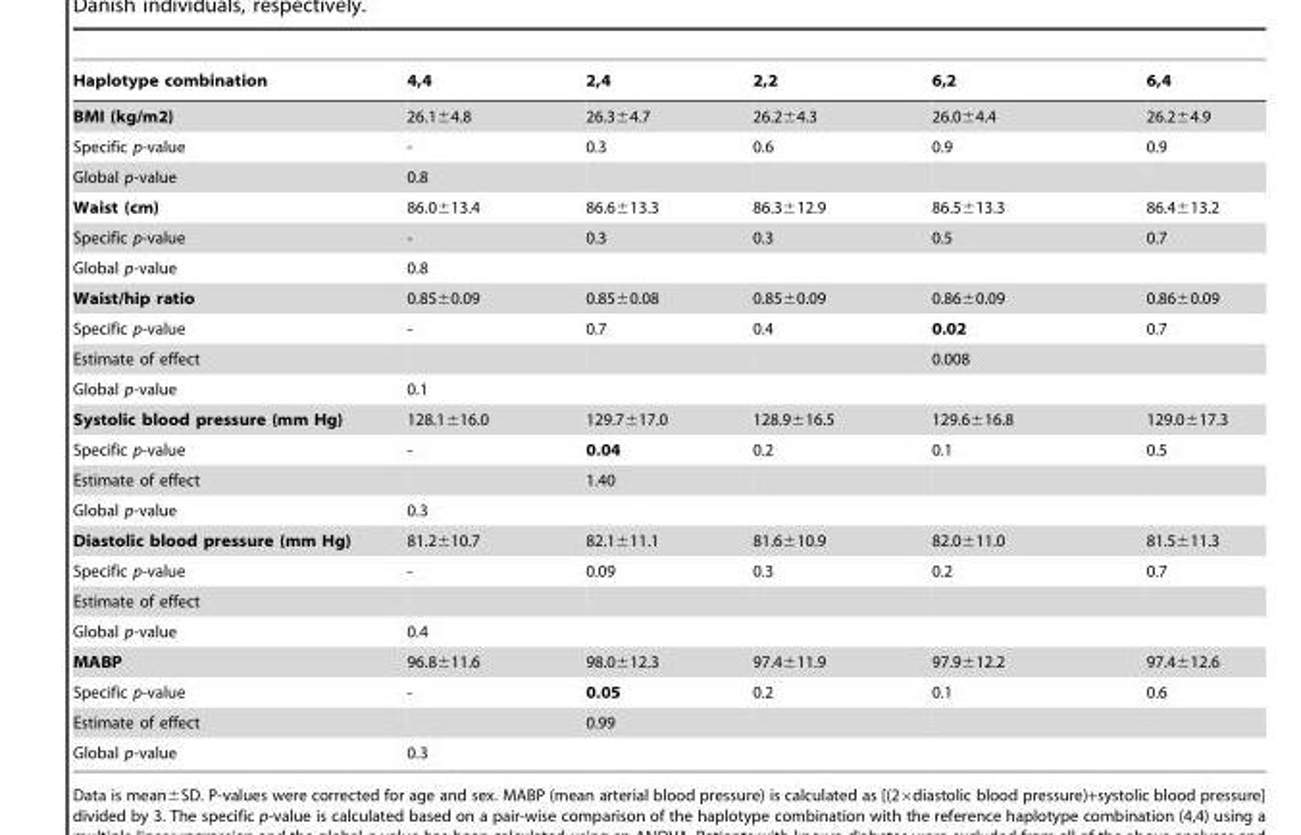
<table><thead><tr><td>Haplotype combination</td><td>4,4</td><td>2,4</td><td>2,2</td><td>6,2</td><td>6,4</td></tr></thead><tbody><tr><td>BMI (kg/m2)</td><td>26.1±4.8</td><td>26.3±4.7</td><td>26.2±4.3</td><td>26.0±4.4</td><td>26.2±4.9</td></tr><tr><td>Specific p-value</td><td>-</td><td>0.3</td><td>0.6</td><td>0.9</td><td>0.9</td></tr><tr><td>Global p-value</td><td>0.8</td><td></td><td></td><td></td><td></td></tr><tr><td>Waist (cm)</td><td>86.0±13.4</td><td>86.6±13.3</td><td>86.3±12.9</td><td>86.5±13.3</td><td>86.4±13.2</td></tr><tr><td>Specific p-value</td><td>-</td><td>0.3</td><td>0.3</td><td>0.5</td><td>0.7</td></tr><tr><td>Global p-value</td><td>0.8</td><td></td><td></td><td></td><td></td></tr><tr><td>Waist/hip ratio</td><td>0.85±0.09</td><td>0.85±0.08</td><td>0.85±0.09</td><td>0.86±0.09</td><td>0.86±0.09</td></tr><tr><td>Specific p-value</td><td>-</td><td>0.7</td><td>0.4</td><td>0.02</td><td>0.7</td></tr><tr><td>Estimate of effect</td><td></td><td></td><td></td><td>0.008</td><td></td></tr><tr><td>Global p-value</td><td>0.1</td><td></td><td></td><td></td><td></td></tr><tr><td>Systolic blood pressure (mm Hg)</td><td>128.1±16.0</td><td>129.7±17.0</td><td>128.9±16.5</td><td>129.6±16.8</td><td>129.0±17.3</td></tr><tr><td>Specific p-value</td><td>-</td><td>0.04</td><td>0.2</td><td>0.1</td><td>0.5</td></tr><tr><td>Estimate of effect</td><td></td><td>1.40</td><td></td><td></td><td></td></tr><tr><td>Global p-value</td><td>0.3</td><td></td><td></td><td></td><td></td></tr><tr><td>Diastolic blood pressure (mm Hg)</td><td>81.2±10.7</td><td>82.1±11.1</td><td>81.6±10.9</td><td>82.0±11.0</td><td>81.5±11.3</td></tr><tr><td>Specific p-value</td><td>-</td><td>0.09</td><td>0.3</td><td>0.2</td><td>0.7</td></tr><tr><td colspan="6">Estimate of effect</td></tr><tr><td>Global p-value</td><td>0.4</td><td></td><td></td><td></td><td></td></tr><tr><td>MABP</td><td>96.8±11.6</td><td>98.0±12.3</td><td>97.4±11.9</td><td>97.9±12.2</td><td>97.4±12.6</td></tr><tr><td>Specific p-value</td><td>-</td><td>0.05</td><td>0.2</td><td>0.1</td><td>0.6</td></tr><tr><td>Estimate of effect</td><td></td><td>0.99</td><td></td><td></td><td></td></tr><tr><td>Global p-value</td><td>0.3</td><td></td><td></td><td></td><td></td></tr></tbody></table>